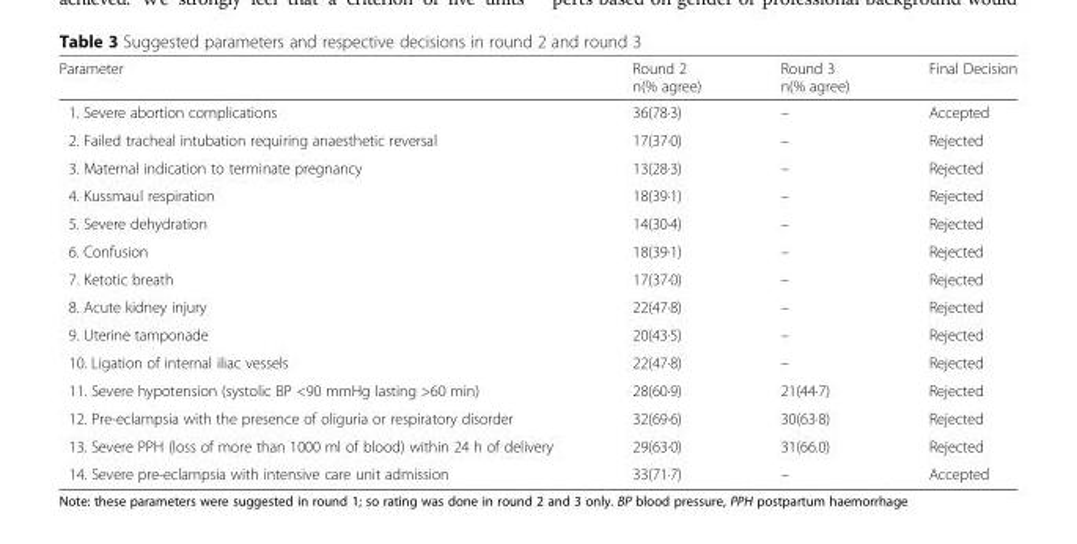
<table><thead><tr><td>Parameter</td><td>Round 2 n(% agree)</td><td>Round 3 n(% agree)</td><td>Final Decision</td></tr></thead><tbody><tr><td>1. Severe abortion complications</td><td>36(78·3)</td><td>–</td><td>Accepted</td></tr><tr><td>2. Failed tracheal intubation requiring anaesthetic reversal</td><td>17(37·0)</td><td>–</td><td>Rejected</td></tr><tr><td>3. Maternal indication to terminate pregnancy</td><td>13(28·3)</td><td>–</td><td>Rejected</td></tr><tr><td>4. Kussmaul respiration</td><td>18(39·1)</td><td>–</td><td>Rejected</td></tr><tr><td>5. Severe dehydration</td><td>14(30·4)</td><td>–</td><td>Rejected</td></tr><tr><td>6. Confusion</td><td>18(39·1)</td><td>–</td><td>Rejected</td></tr><tr><td>7. Ketotic breath</td><td>17(37·0)</td><td>–</td><td>Rejected</td></tr><tr><td>8. Acute kidney injury</td><td>22(47·8)</td><td>–</td><td>Rejected</td></tr><tr><td>9. Uterine tamponade</td><td>20(43·5)</td><td>–</td><td>Rejected</td></tr><tr><td>10. Ligation of internal iliac vessels</td><td>22(47·8)</td><td>–</td><td>Rejected</td></tr><tr><td>11. Severe hypotension (systolic BP &lt;90 mmHg lasting &gt;60 min)</td><td>28(60·9)</td><td>21(44·7)</td><td>Rejected</td></tr><tr><td>12. Pre-eclampsia with the presence of oliguria or respiratory disorder</td><td>32(69·6)</td><td>30(63·8)</td><td>Rejected</td></tr><tr><td>13. Severe PPH (loss of more than 1000 ml of blood) within 24 h of delivery</td><td>29(63·0)</td><td>31(66.0)</td><td>Rejected</td></tr><tr><td>14. Severe pre-eclampsia with intensive care unit admission</td><td>33(71·7)</td><td>–</td><td>Accepted</td></tr></tbody></table>